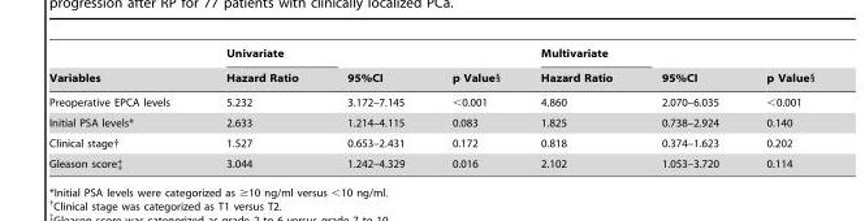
<table><thead><tr><td rowspan="2">Variables</td><td rowspan="2">Univariate Hazard Ratio</td><td rowspan="2">95%CI</td><td rowspan="2">p Value§</td><td rowspan="2">Multivariate Hazard Ratio</td><td rowspan="2">95%CI</td><td rowspan="2">p Value§</td></tr><tr></tr></thead><tbody><tr><td>Preoperative EPCA levels</td><td>5.232</td><td>3.172–7.145</td><td>&lt;0.001</td><td>4.860</td><td>2.070–6.035</td><td>&lt;0.001</td></tr><tr><td>Initial PSA levels*</td><td>2.633</td><td>1.214–4.115</td><td>0.083</td><td>1.825</td><td>0.738–2.924</td><td>0.140</td></tr><tr><td>Clinical stage†</td><td>1.527</td><td>0.653–2.431</td><td>0.172</td><td>0.818</td><td>0.374–1.623</td><td>0.202</td></tr><tr><td>Gleason score‡</td><td>3.044</td><td>1.242–4.329</td><td>0.016</td><td>2.102</td><td>1.053–3.720</td><td>0.114</td></tr></tbody></table>